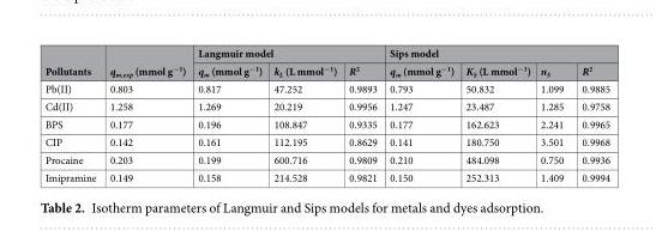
<table><thead><tr><td rowspan="2">Pollutants</td><td rowspan="2">q<sub>m,exp</sub> (mmol g<sup>−1</sup>)</td><td colspan="3">Langmuir model</td><td colspan="4">Sips model</td></tr><tr><td>q<sub>m</sub> (mmol g<sup>−1</sup>)</td><td>k<sub>L</sub> (L mmol<sup>−1</sup>)</td><td>R<sup>2</sup></td><td>q<sub>m</sub> (mmol g<sup>−1</sup>)</td><td>K<sub>S</sub> (L mmol<sup>−1</sup>)</td><td>n<sub>S</sub></td><td>R<sup>2</sup></td></tr></thead><tbody><tr><td>Pb(II)</td><td>0.803</td><td>0.817</td><td>47.252</td><td>0.9893</td><td>0.793</td><td>50.832</td><td>1.099</td><td>0.9885</td></tr><tr><td>Cd(II)</td><td>1.258</td><td>1.269</td><td>20.219</td><td>0.9956</td><td>1.247</td><td>23.487</td><td>1.285</td><td>0.9758</td></tr><tr><td>BPS</td><td>0.177</td><td>0.196</td><td>108.847</td><td>0.9335</td><td>0.177</td><td>162.623</td><td>2.241</td><td>0.9965</td></tr><tr><td>CIP</td><td>0.142</td><td>0.161</td><td>112.195</td><td>0.8629</td><td>0.141</td><td>180.750</td><td>3.501</td><td>0.9968</td></tr><tr><td>Procaine</td><td>0.203</td><td>0.199</td><td>600.716</td><td>0.9809</td><td>0.210</td><td>484.098</td><td>0.750</td><td>0.9936</td></tr><tr><td>Imipramine</td><td>0.149</td><td>0.158</td><td>214.528</td><td>0.9821</td><td>0.150</td><td>252.313</td><td>1.409</td><td>0.9994</td></tr></tbody></table>